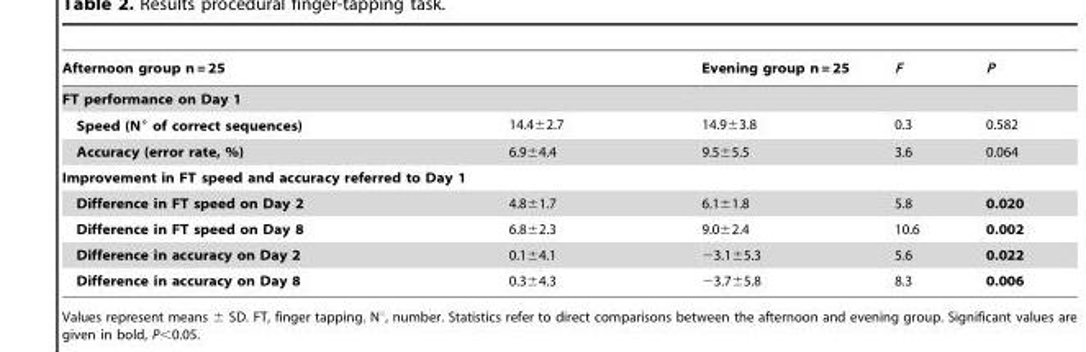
<table><thead><tr><td colspan="2">Afternoon group n = 25</td><td>Evening group n = 25</td><td>F</td><td>P</td></tr><tr><td colspan="5">FT performance on Day 1</td></tr><tr><td>Speed (N° of correct sequences)</td><td>14.4±2.7</td><td>14.9±3.8</td><td>0.3</td><td>0.582</td></tr></thead><tbody><tr><td>Accuracy (error rate, %)</td><td>6.9±4.4</td><td>9.5±5.5</td><td>3.6</td><td>0.064</td></tr><tr><td colspan="5">Improvement in FT speed and accuracy referred to Day 1</td></tr><tr><td>Difference in FT speed on Day 2</td><td>4.8±1.7</td><td>6.1±1.8</td><td>5.8</td><td>0.020</td></tr><tr><td>Difference in FT speed on Day 8</td><td>6.8±2.3</td><td>9.0±2.4</td><td>10.6</td><td>0.002</td></tr><tr><td>Difference in accuracy on Day 2</td><td>0.1±4.1</td><td>−3.1±5.3</td><td>5.6</td><td>0.022</td></tr><tr><td>Difference in accuracy on Day 8</td><td>0.3±4.3</td><td>−3.7±5.8</td><td>8.3</td><td>0.006</td></tr></tbody></table>